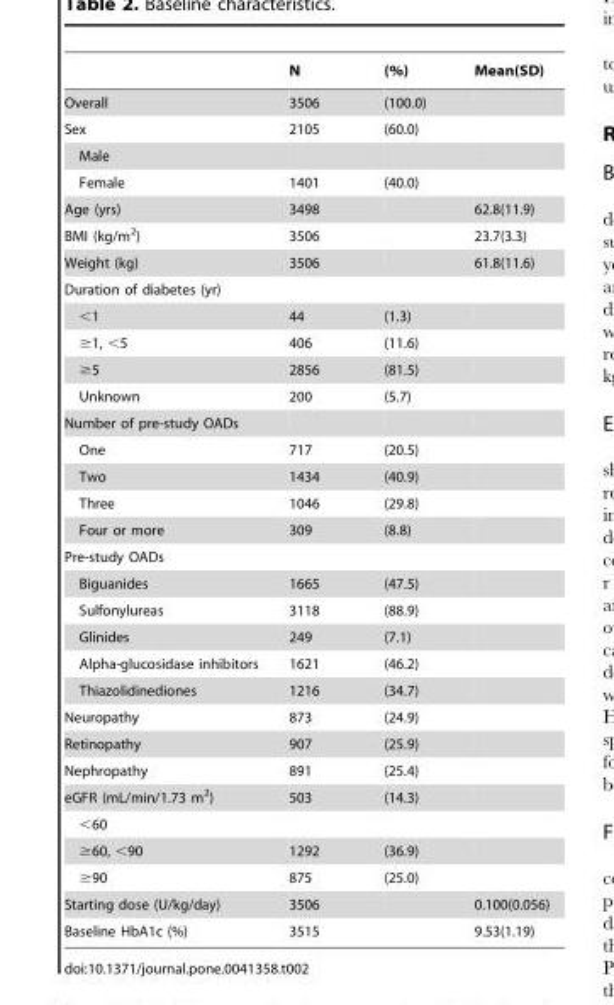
<table><thead><tr><td></td><td>N</td><td>(%)</td><td>Mean(SD)</td></tr></thead><tbody><tr><td>Overall</td><td>3506</td><td>(100.0)</td><td></td></tr><tr><td>Sex</td><td>2105</td><td>(60.0)</td><td></td></tr><tr><td colspan="4">Male</td></tr><tr><td>Female</td><td>1401</td><td>(40.0)</td><td></td></tr><tr><td>Age (yrs)</td><td>3498</td><td></td><td>62.8(11.9)</td></tr><tr><td>BMI (kg/m<sup>2</sup>)</td><td>3506</td><td></td><td>23.7(3.3)</td></tr><tr><td>Weight (kg)</td><td>3506</td><td></td><td>61.8(11.6)</td></tr><tr><td colspan="4">Duration of diabetes (yr)</td></tr><tr><td>&lt;1</td><td>44</td><td>(1.3)</td><td></td></tr><tr><td>≥1, &lt;5</td><td>406</td><td>(11.6)</td><td></td></tr><tr><td>≥5</td><td>2856</td><td>(81.5)</td><td></td></tr><tr><td>Unknown</td><td>200</td><td>(5.7)</td><td></td></tr><tr><td colspan="4">Number of pre-study OADs</td></tr><tr><td>One</td><td>717</td><td>(20.5)</td><td></td></tr><tr><td>Two</td><td>1434</td><td>(40.9)</td><td></td></tr><tr><td>Three</td><td>1046</td><td>(29.8)</td><td></td></tr><tr><td>Four or more</td><td>309</td><td>(8.8)</td><td></td></tr><tr><td colspan="4">Pre-study OADs</td></tr><tr><td>Biguanides</td><td>1665</td><td>(47.5)</td><td></td></tr><tr><td>Sulfonylureas</td><td>3118</td><td>(88.9)</td><td></td></tr><tr><td>Glinides</td><td>249</td><td>(7.1)</td><td></td></tr><tr><td>Alpha-glucosidase inhibitors</td><td>1621</td><td>(46.2)</td><td></td></tr><tr><td>Thiazolidinediones</td><td>1216</td><td>(34.7)</td><td></td></tr><tr><td>Neuropathy</td><td>873</td><td>(24.9)</td><td></td></tr><tr><td>Retinopathy</td><td>907</td><td>(25.9)</td><td></td></tr><tr><td>Nephropathy</td><td>891</td><td>(25.4)</td><td></td></tr><tr><td>eGFR (mL/min/1.73 m<sup>2</sup>)</td><td>503</td><td>(14.3)</td><td></td></tr><tr><td colspan="4">&lt;60</td></tr><tr><td>≥60, &lt;90</td><td>1292</td><td>(36.9)</td><td></td></tr><tr><td>≥90</td><td>875</td><td>(25.0)</td><td></td></tr><tr><td>Starting dose (U/kg/day)</td><td>3506</td><td></td><td>0.100(0.056)</td></tr><tr><td>Baseline HbA1c (%)</td><td>3515</td><td></td><td>9.53(1.19)</td></tr></tbody></table>